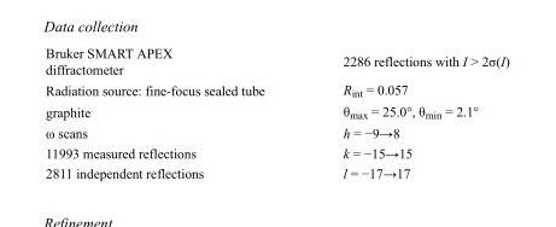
<table><tbody><tr><td>Bruker SMART APEX diffractometer</td><td>2286 reflections with I &gt; 2σ(I)</td></tr><tr><td>Radiation source: fine-focus sealed tube</td><td>R<sub>int</sub> = 0.057</td></tr><tr><td>graphite</td><td>θ<sub>max</sub> = 25.0°, θ<sub>min</sub> = 2.1°</td></tr><tr><td>ω scans</td><td>h = −9→8</td></tr><tr><td>11993 measured reflections</td><td>k = −15→15</td></tr><tr><td>2811 independent reflections</td><td>l = −17→17</td></tr></tbody></table>